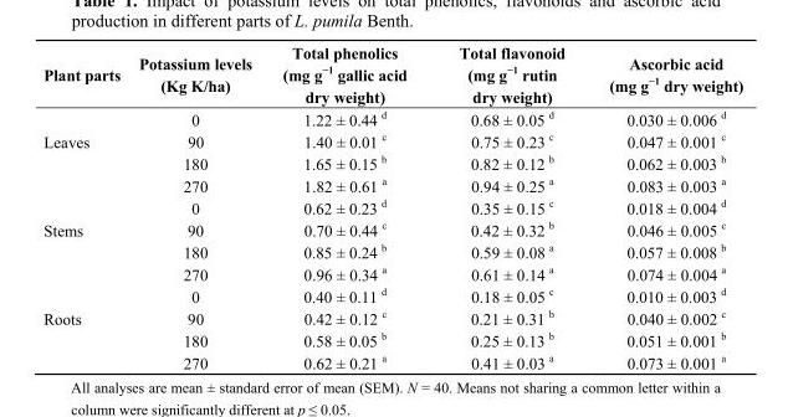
<table><thead><tr><td>Plant parts</td><td>Potassium levels (Kg K/ha)</td><td>Total phenolics (mg g<sup>−1</sup> gallic acid dry weight)</td><td>Total flavonoid (mg g<sup>−1</sup> rutin dry weight)</td><td>Ascorbic acid (mg g<sup>−1</sup> dry weight)</td></tr></thead><tbody><tr><td></td><td>0</td><td>1.22 ± 0.44 <sup>d</sup></td><td>0.68 ± 0.05 <sup>d</sup></td><td>0.030 ± 0.006 <sup>d</sup></td></tr><tr><td rowspan="4">Leaves</td><td>90</td><td>1.40 ± 0.01 <sup>c</sup></td><td>0.75 ± 0.23 <sup>c</sup></td><td>0.047 ± 0.001 <sup>c</sup></td></tr><tr><td>180</td><td>1.65 ± 0.15 <sup>b</sup></td><td>0.82 ± 0.12 <sup>b</sup></td><td>0.062 ± 0.003 <sup>b</sup></td></tr><tr><td>270</td><td>1.82 ± 0.61 <sup>a</sup></td><td>0.94 ± 0.25 <sup>a</sup></td><td>0.083 ± 0.003 <sup>a</sup></td></tr><tr><td>0</td><td>0.62 ± 0.23 <sup>d</sup></td><td>0.35 ± 0.15 <sup>c</sup></td><td>0.018 ± 0.004 <sup>d</sup></td></tr><tr><td rowspan="4">Stems</td><td>90</td><td>0.70 ± 0.44 <sup>c</sup></td><td>0.42 ± 0.32 <sup>b</sup></td><td>0.046 ± 0.005 <sup>c</sup></td></tr><tr><td>180</td><td>0.85 ± 0.24 <sup>b</sup></td><td>0.59 ± 0.08 <sup>a</sup></td><td>0.057 ± 0.008 <sup>b</sup></td></tr><tr><td>270</td><td>0.96 ± 0.34 <sup>a</sup></td><td>0.61 ± 0.14 <sup>a</sup></td><td>0.074 ± 0.004 <sup>a</sup></td></tr><tr><td>0</td><td>0.40 ± 0.11 <sup>d</sup></td><td>0.18 ± 0.05 <sup>c</sup></td><td>0.010 ± 0.003 <sup>d</sup></td></tr><tr><td rowspan="3">Roots</td><td>90</td><td>0.42 ± 0.12 <sup>c</sup></td><td>0.21 ± 0.31 <sup>b</sup></td><td>0.040 ± 0.002 <sup>c</sup></td></tr><tr><td>180</td><td>0.58 ± 0.05 <sup>b</sup></td><td>0.25 ± 0.13 <sup>b</sup></td><td>0.051 ± 0.001 <sup>b</sup></td></tr><tr><td>270</td><td>0.62 ± 0.21 <sup>a</sup></td><td>0.41 ± 0.03 <sup>a</sup></td><td>0.073 ± 0.001 <sup>a</sup></td></tr></tbody></table>